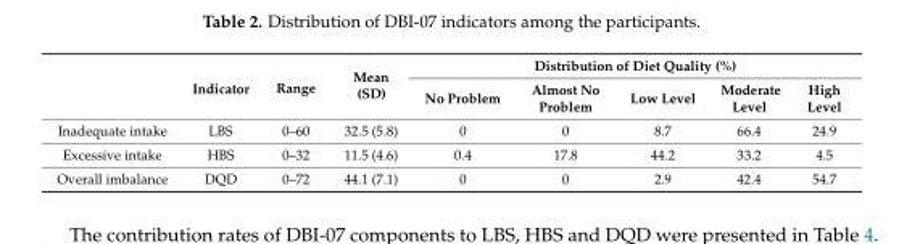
<table><thead><tr><td rowspan="2"></td><td rowspan="2">Indicator</td><td rowspan="2">Range</td><td rowspan="2">Mean (SD)</td><td colspan="5">Distribution of Diet Quality (%)</td></tr><tr><td>No Problem</td><td>Almost No Problem</td><td>Low Level</td><td>Moderate Level</td><td>High Level</td></tr></thead><tbody><tr><td>Inadequate intake</td><td>LBS</td><td>0–60</td><td>32.5 (5.8)</td><td>0</td><td>0</td><td>8.7</td><td>66.4</td><td>24.9</td></tr><tr><td>Excessive intake</td><td>HBS</td><td>0–32</td><td>11.5 (4.6)</td><td>0.4</td><td>17.8</td><td>44.2</td><td>33.2</td><td>4.5</td></tr><tr><td>Overall imbalance</td><td>DQD</td><td>0–72</td><td>44.1 (7.1)</td><td>0</td><td>0</td><td>2.9</td><td>42.4</td><td>54.7</td></tr></tbody></table>